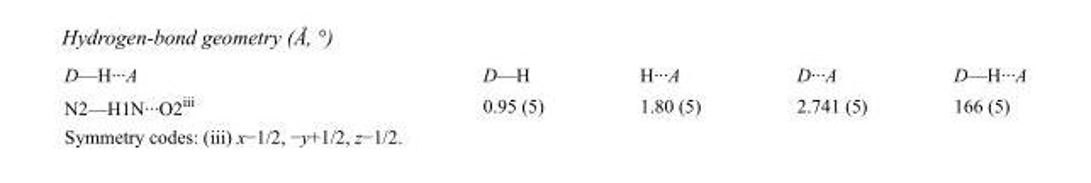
<table><tbody><tr><td>D—H···A</td><td>D—H</td><td>H···A</td><td>D···A</td><td>D—H···A</td></tr><tr><td>N2—H1N···O2<sup>iii</sup></td><td>0.95 (5)</td><td>1.80 (5)</td><td>2.741 (5)</td><td>166 (5)</td></tr></tbody></table>